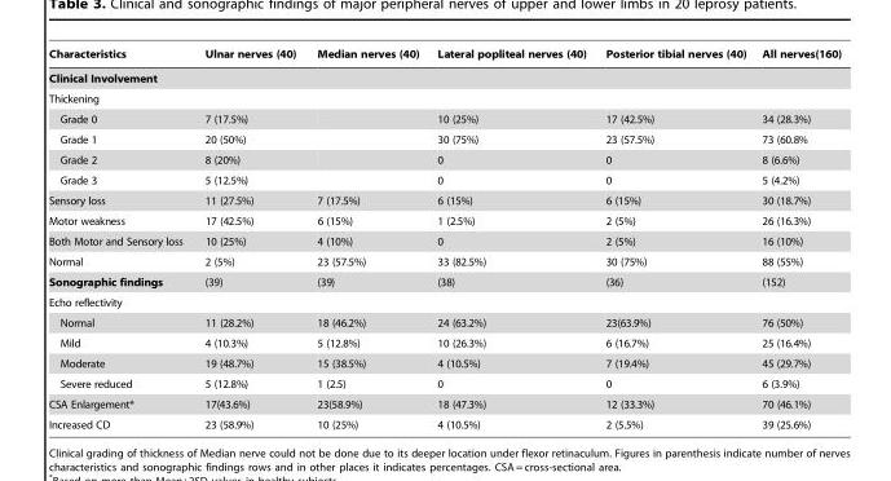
<table><thead><tr><td>Characteristics</td><td>Ulnar nerves (40)</td><td>Median nerves (40)</td><td>Lateral popliteal nerves (40)</td><td>Posterior tibial nerves (40)</td><td>All nerves(160)</td></tr></thead><tbody><tr><td colspan="6">Clinical Involvement</td></tr><tr><td colspan="6">Thickening</td></tr><tr><td>Grade 0</td><td>7 (17.5%)</td><td></td><td>10 (25%)</td><td>17 (42.5%)</td><td>34 (28.3%)</td></tr><tr><td>Grade 1</td><td>20 (50%)</td><td></td><td>30 (75%)</td><td>23 (57.5%)</td><td>73 (60.8%</td></tr><tr><td>Grade 2</td><td>8 (20%)</td><td></td><td>0</td><td>0</td><td>8 (6.6%)</td></tr><tr><td>Grade 3</td><td>5 (12.5%)</td><td></td><td>0</td><td>0</td><td>5 (4.2%)</td></tr><tr><td>Sensory loss</td><td>11 (27.5%)</td><td>7 (17.5%)</td><td>6 (15%)</td><td>6 (15%)</td><td>30 (18.7%)</td></tr><tr><td>Motor weakness</td><td>17 (42.5%)</td><td>6 (15%)</td><td>1 (2.5%)</td><td>2 (5%)</td><td>26 (16.3%)</td></tr><tr><td>Both Motor and Sensory loss</td><td>10 (25%)</td><td>4 (10%)</td><td>0</td><td>2 (5%)</td><td>16 (10%)</td></tr><tr><td>Normal</td><td>2 (5%)</td><td>23 (57.5%)</td><td>33 (82.5%)</td><td>30 (75%)</td><td>88 (55%)</td></tr><tr><td>Sonographic findings</td><td>(39)</td><td>(39)</td><td>(38)</td><td>(36)</td><td>(152)</td></tr><tr><td colspan="6">Echo reflectivity</td></tr><tr><td>Normal</td><td>11 (28.2%)</td><td>18 (46.2%)</td><td>24 (63.2%)</td><td>23(63.9%)</td><td>76 (50%)</td></tr><tr><td>Mild</td><td>4 (10.3%)</td><td>5 (12.8%)</td><td>10 (26.3%)</td><td>6 (16.7%)</td><td>25 (16.4%)</td></tr><tr><td>Moderate</td><td>19 (48.7%)</td><td>15 (38.5%)</td><td>4 (10.5%)</td><td>7 (19.4%)</td><td>45 (29.7%)</td></tr><tr><td>Severe reduced</td><td>5 (12.8%)</td><td>1 (2.5)</td><td>0</td><td>0</td><td>6 (3.9%)</td></tr><tr><td>CSA Enlargement*</td><td>17(43.6%)</td><td>23(58.9%)</td><td>18 (47.3%)</td><td>12 (33.3%)</td><td>70 (46.1%)</td></tr><tr><td>Increased CD</td><td>23 (58.9%)</td><td>10 (25%)</td><td>4 (10.5%)</td><td>2 (5.5%)</td><td>39 (25.6%)</td></tr></tbody></table>